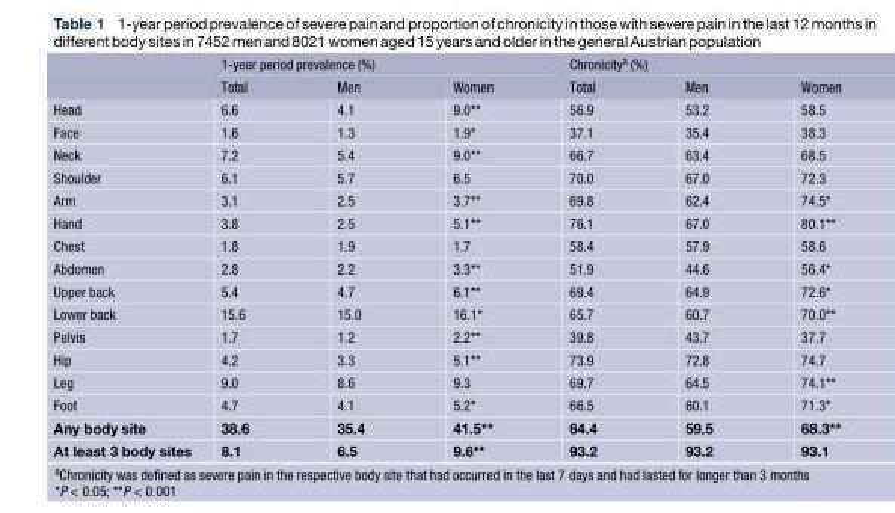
<table><thead><tr><td rowspan="2"></td><td colspan="3">1-year period prevalence (%)</td><td colspan="3">Chronicity<sup>a</sup> (%)</td></tr><tr><td>Total</td><td>Men</td><td>Women</td><td>Total</td><td>Men</td><td>Women</td></tr></thead><tbody><tr><td>Head</td><td>6.6</td><td>4.1</td><td>9.0**</td><td>56.9</td><td>53.2</td><td>58.5</td></tr><tr><td>Face</td><td>1.6</td><td>1.3</td><td>1.9*</td><td>37.1</td><td>35.4</td><td>38.3</td></tr><tr><td>Neck</td><td>7.2</td><td>5.4</td><td>9.0**</td><td>66.7</td><td>63.4</td><td>68.5</td></tr><tr><td>Shoulder</td><td>6.1</td><td>5.7</td><td>6.5</td><td>70.0</td><td>67.0</td><td>72.3</td></tr><tr><td>Arm</td><td>3.1</td><td>2.5</td><td>3.7**</td><td>69.8</td><td>62.4</td><td>74.5*</td></tr><tr><td>Hand</td><td>3.8</td><td>2.5</td><td>5.1**</td><td>76.1</td><td>67.0</td><td>80.1**</td></tr><tr><td>Chest</td><td>1.8</td><td>1.9</td><td>1.7</td><td>58.4</td><td>57.9</td><td>58.6</td></tr><tr><td>Abdomen</td><td>2.8</td><td>2.2</td><td>3.3**</td><td>51.9</td><td>44.6</td><td>56.4*</td></tr><tr><td>Upper back</td><td>5.4</td><td>4.7</td><td>6.1**</td><td>69.4</td><td>64.9</td><td>72.6*</td></tr><tr><td>Lower back</td><td>15.6</td><td>15.0</td><td>16.1*</td><td>65.7</td><td>60.7</td><td>70.0**</td></tr><tr><td>Pelvis</td><td>1.7</td><td>1.2</td><td>2.2**</td><td>39.8</td><td>43.7</td><td>37.7</td></tr><tr><td>Hip</td><td>4.2</td><td>3.3</td><td>5.1**</td><td>73.9</td><td>72.8</td><td>74.7</td></tr><tr><td>Leg</td><td>9.0</td><td>8.6</td><td>9.3</td><td>69.7</td><td>64.5</td><td>74.1**</td></tr><tr><td>Foot</td><td>4.7</td><td>4.1</td><td>5.2*</td><td>66.5</td><td>60.1</td><td>71.3*</td></tr><tr><td>Any body site</td><td>38.6</td><td>35.4</td><td>41.5**</td><td>64.4</td><td>59.5</td><td>68.3**</td></tr><tr><td>At least 3 body sites</td><td>8.1</td><td>6.5</td><td>9.6**</td><td>93.2</td><td>93.2</td><td>93.1</td></tr></tbody></table>